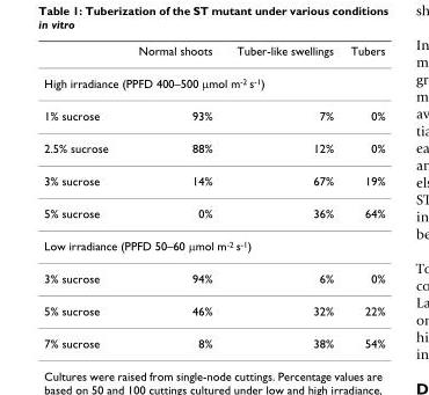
<table><thead><tr><td></td><td>Normal shoots</td><td>Tuber-like swellings</td><td>Tubers</td></tr></thead><tbody><tr><td colspan="4">High irradiance (PPFD 400–500 μmol m<sup>-2</sup> s<sup>-1</sup>)</td></tr><tr><td>1% sucrose</td><td>93%</td><td>7%</td><td>0%</td></tr><tr><td>2.5% sucrose</td><td>88%</td><td>12%</td><td>0%</td></tr><tr><td>3% sucrose</td><td>14%</td><td>67%</td><td>19%</td></tr><tr><td>5% sucrose</td><td>0%</td><td>36%</td><td>64%</td></tr><tr><td colspan="4">Low irradiance (PPFD 50–60 μmol m<sup>-2</sup> s<sup>-1</sup>)</td></tr><tr><td>3% sucrose</td><td>94%</td><td>6%</td><td>0%</td></tr><tr><td>5% sucrose</td><td>46%</td><td>32%</td><td>22%</td></tr><tr><td>7% sucrose</td><td>8%</td><td>38%</td><td>54%</td></tr></tbody></table>